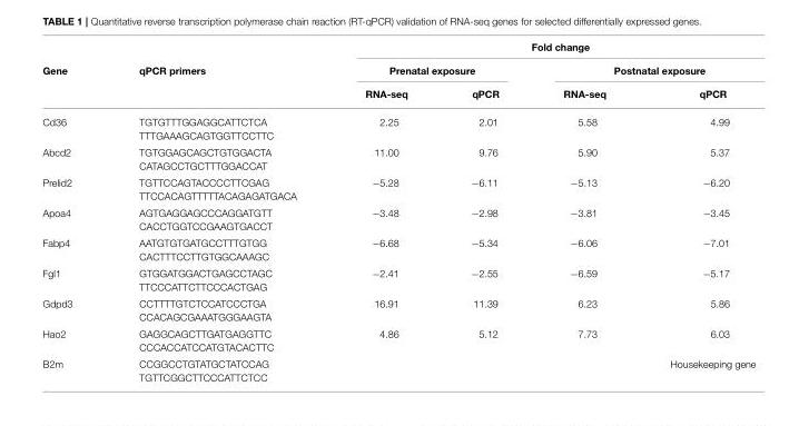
<table><thead><tr><td rowspan="3">Gene</td><td rowspan="3">qPCR primers</td><td colspan="4">Fold change</td></tr><tr><td colspan="2">Prenatal exposure</td><td colspan="2">Postnatal exposure</td></tr><tr><td>RNA-seq</td><td>qPCR</td><td>RNA-seq</td><td>qPCR</td></tr></thead><tbody><tr><td>Cd36</td><td>TGTGTTTGGAGGCATTCTCA TTTGAAAGCAGTGGTTCCTTC</td><td>2.25</td><td>2.01</td><td>5.58</td><td>4.99</td></tr><tr><td>Abcd2</td><td>TGTGGAGCAGCTGTGGACTA CATAGCCTGCTTTGGACCAT</td><td>11.00</td><td>9.76</td><td>5.90</td><td>5.37</td></tr><tr><td>Prelid2</td><td>TGTTCCAGTACCCCTTCGAG TTCCACAGTTTTTACAGAGATGACA</td><td>−5.28</td><td>−6.11</td><td>−5.13</td><td>−6.20</td></tr><tr><td>Apoa4</td><td>AGTGAGGAGCCCAGGATGTT CACCTGGTCCGAAGTGACCT</td><td>−3.48</td><td>−2.98</td><td>−3.81</td><td>−3.45</td></tr><tr><td>Fabp4</td><td>AATGTGTGATGCCTTTGTGG CACTTTCCTTGTGGCAAAGC</td><td>−6.68</td><td>−5.34</td><td>−6.06</td><td>−7.01</td></tr><tr><td>Fgl1</td><td>GTGGATGGACTGAGCCTAGC TTCCCATTCTTCCCACTGAG</td><td>−2.41</td><td>−2.55</td><td>−6.59</td><td>−5.17</td></tr><tr><td>Gdpd3</td><td>CCTTTTGTCTCCATCCCTGA CCACAGCGAAATGGGAAGTA</td><td>16.91</td><td>11.39</td><td>6.23</td><td>5.86</td></tr><tr><td>Hao2</td><td>GAGGCAGCTTGATGAGGTTC CCCACCATCCATGTACACTTC</td><td>4.86</td><td>5.12</td><td>7.73</td><td>6.03</td></tr><tr><td>B2m</td><td>CCGGCCTGTATGCTATCCAG TGTTCGGCTTCCCATTCTCC</td><td></td><td></td><td></td><td>Housekeeping gene</td></tr></tbody></table>